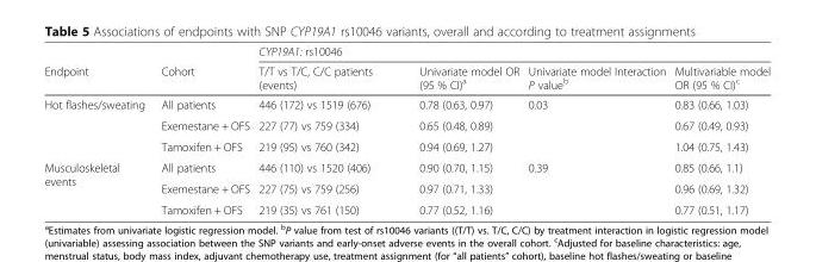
<table><thead><tr><td rowspan="2">Endpoint</td><td rowspan="2">Cohort</td><td colspan="4">CYP19A1: rs10046</td></tr><tr><td>T/T vs T/C, C/C patients (events)</td><td>Univariate model OR (95 % CI)<sup>a</sup></td><td>Univariate model Interaction P value<sup>b</sup></td><td>Multivariable model OR (95 % CI)<sup>c</sup></td></tr></thead><tbody><tr><td rowspan="3">Hot flashes/sweating</td><td>All patients</td><td>446 (172) vs 1519 (676)</td><td>0.78 (0.63, 0.97)</td><td rowspan="3">0.03</td><td>0.83 (0.66, 1.03)</td></tr><tr><td>Exemestane + OFS</td><td>227 (77) vs 759 (334)</td><td>0.65 (0.48, 0.89)</td><td>0.67 (0.49, 0.93)</td></tr><tr><td>Tamoxifen + OFS</td><td>219 (95) vs 760 (342)</td><td>0.94 (0.69, 1.27)</td><td>1.04 (0.75, 1.43)</td></tr><tr><td rowspan="3">Musculoskeletal events</td><td>All patients</td><td>446 (110) vs 1520 (406)</td><td>0.90 (0.70, 1.15)</td><td rowspan="3">0.39</td><td>0.85 (0.66, 1.1)</td></tr><tr><td>Exemestane + OFS</td><td>227 (75) vs 759 (256)</td><td>0.97 (0.71, 1.33)</td><td>0.96 (0.69, 1.32)</td></tr><tr><td>Tamoxifen + OFS</td><td>219 (35) vs 761 (150)</td><td>0.77 (0.52, 1.16)</td><td>0.77 (0.51, 1.17)</td></tr></tbody></table>